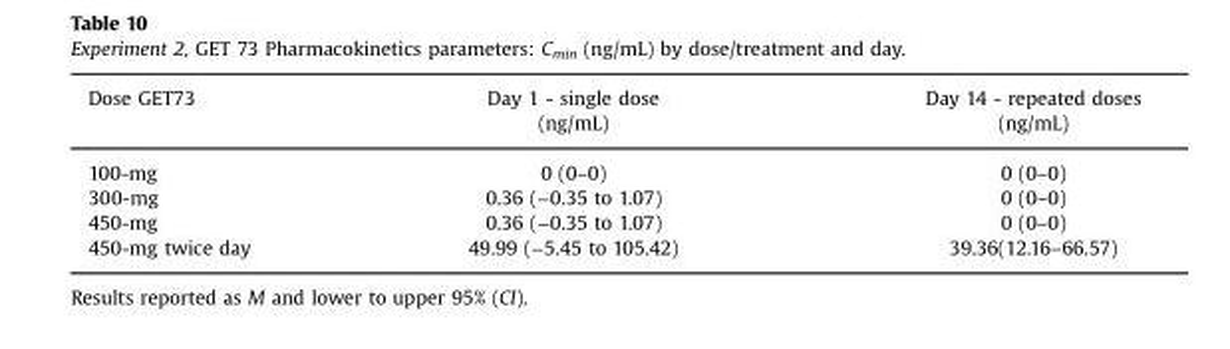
<table><thead><tr><td>Dose GET73</td><td>Day 1 - single dose (ng/mL)</td><td>Day 14 - repeated doses (ng/mL)</td></tr></thead><tbody><tr><td>100-mg</td><td>0 (0–0)</td><td>0 (0–0)</td></tr><tr><td>300-mg</td><td>0.36 (−0.35 to 1.07)</td><td>0 (0–0)</td></tr><tr><td>450-mg</td><td>0.36 (−0.35 to 1.07)</td><td>0 (0–0)</td></tr><tr><td>450-mg twice day</td><td>49.99 (−5.45 to 105.42)</td><td>39.36(12.16–66.57)</td></tr></tbody></table>